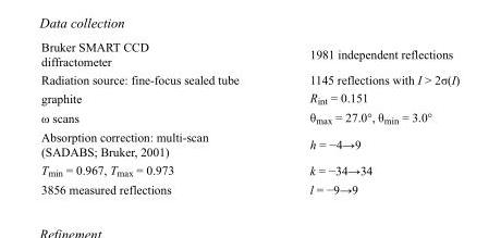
<table><tbody><tr><td>Bruker SMART CCD diffractometer</td><td>1981 independent reflections</td></tr><tr><td>Radiation source: fine-focus sealed tube</td><td>1145 reflections with I &gt; 2σ(I)</td></tr><tr><td>graphite</td><td>R<sub>int</sub> = 0.151</td></tr><tr><td>ω scans</td><td>θ<sub>max</sub> = 27.0°, θ<sub>min</sub> = 3.0°</td></tr><tr><td>Absorption correction: multi-scan (SADABS; Bruker, 2001)</td><td>h = −4→9</td></tr><tr><td>T<sub>min</sub> = 0.967, T<sub>max</sub> = 0.973</td><td>k = −34→34</td></tr><tr><td>3856 measured reflections</td><td>l = −9→9</td></tr></tbody></table>